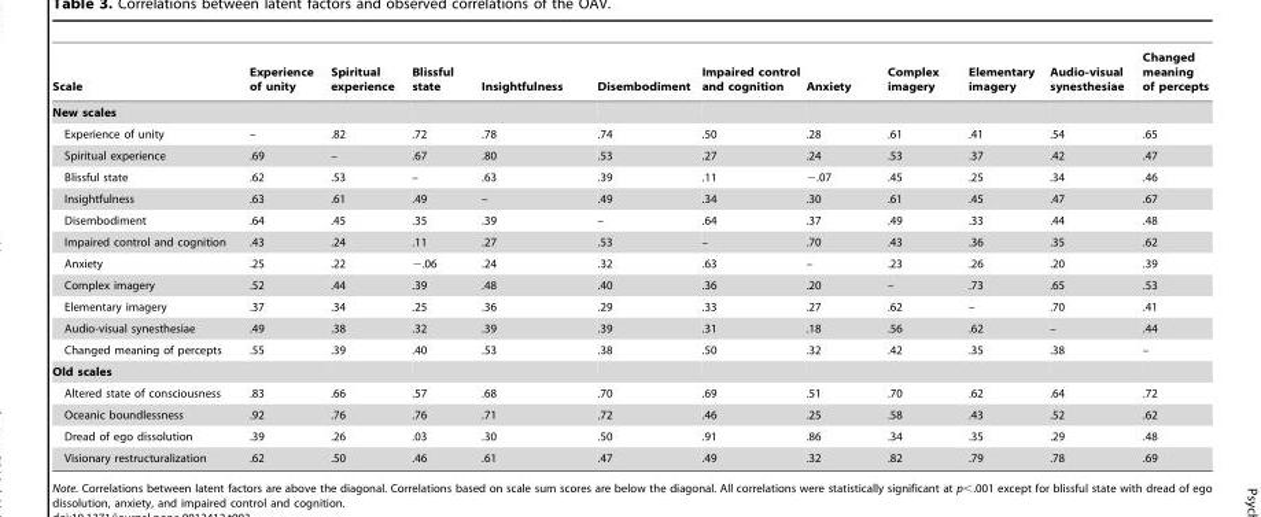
<table><thead><tr><td>Scale</td><td>Experience of unity</td><td>Spiritual experience</td><td>Blissful state</td><td>Insightfulness</td><td>Disembodiment</td><td>Impaired control and cognition</td><td>Anxiety</td><td>Complex imagery</td><td>Elementary imagery</td><td>Audio-visual synesthesiae</td><td>Changed meaning of percepts</td></tr></thead><tbody><tr><td colspan="12">New scales</td></tr><tr><td>Experience of unity</td><td>–</td><td>.82</td><td>.72</td><td>.78</td><td>.74</td><td>.50</td><td>.28</td><td>.61</td><td>.41</td><td>.54</td><td>.65</td></tr><tr><td>Spiritual experience</td><td>.69</td><td>–</td><td>.67</td><td>.80</td><td>.53</td><td>.27</td><td>.24</td><td>.53</td><td>.37</td><td>.42</td><td>.47</td></tr><tr><td>Blissful state</td><td>.62</td><td>.53</td><td>–</td><td>.63</td><td>.39</td><td>.11</td><td>−.07</td><td>.45</td><td>.25</td><td>.34</td><td>.46</td></tr><tr><td>Insightfulness</td><td>.63</td><td>.61</td><td>.49</td><td>–</td><td>.49</td><td>.34</td><td>.30</td><td>.61</td><td>.45</td><td>.47</td><td>.67</td></tr><tr><td>Disembodiment</td><td>.64</td><td>.45</td><td>.35</td><td>.39</td><td>–</td><td>.64</td><td>.37</td><td>.49</td><td>.33</td><td>.44</td><td>.48</td></tr><tr><td>Impaired control and cognition</td><td>.43</td><td>.24</td><td>.11</td><td>.27</td><td>.53</td><td>–</td><td>.70</td><td>.43</td><td>.36</td><td>.35</td><td>.62</td></tr><tr><td>Anxiety</td><td>.25</td><td>.22</td><td>−.06</td><td>.24</td><td>.32</td><td>.63</td><td>–</td><td>.23</td><td>.26</td><td>.20</td><td>.39</td></tr><tr><td>Complex imagery</td><td>.52</td><td>.44</td><td>.39</td><td>.48</td><td>.40</td><td>.36</td><td>.20</td><td>–</td><td>.73</td><td>.65</td><td>.53</td></tr><tr><td>Elementary imagery</td><td>.37</td><td>.34</td><td>.25</td><td>.36</td><td>.29</td><td>.33</td><td>.27</td><td>.62</td><td>–</td><td>.70</td><td>.41</td></tr><tr><td>Audio-visual synesthesiae</td><td>.49</td><td>.38</td><td>.32</td><td>.39</td><td>.39</td><td>.31</td><td>.18</td><td>.56</td><td>.62</td><td>–</td><td>.44</td></tr><tr><td>Changed meaning of percepts</td><td>.55</td><td>.39</td><td>.40</td><td>.53</td><td>.38</td><td>.50</td><td>.32</td><td>.42</td><td>.35</td><td>.38</td><td>–</td></tr><tr><td colspan="12">Old scales</td></tr><tr><td>Altered state of consciousness</td><td>.83</td><td>.66</td><td>.57</td><td>.68</td><td>.70</td><td>.69</td><td>.51</td><td>.70</td><td>.62</td><td>.64</td><td>.72</td></tr><tr><td>Oceanic boundlessness</td><td>.92</td><td>.76</td><td>.76</td><td>.71</td><td>.72</td><td>.46</td><td>.25</td><td>.58</td><td>.43</td><td>.52</td><td>.62</td></tr><tr><td>Dread of ego dissolution</td><td>.39</td><td>.26</td><td>.03</td><td>.30</td><td>.50</td><td>.91</td><td>.86</td><td>.34</td><td>.35</td><td>.29</td><td>.48</td></tr><tr><td>Visionary restructuralization</td><td>.62</td><td>.50</td><td>.46</td><td>.61</td><td>.47</td><td>.49</td><td>.32</td><td>.82</td><td>.79</td><td>.78</td><td>.69</td></tr></tbody></table>